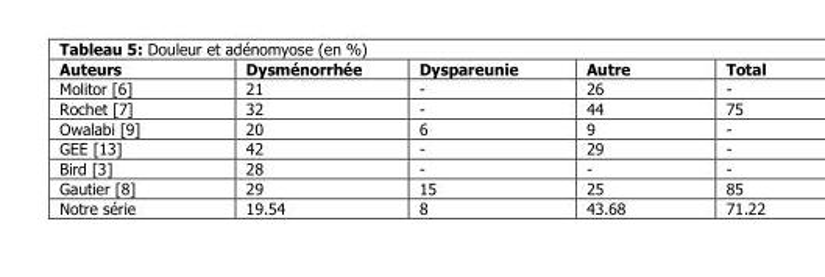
<table><thead><tr><td>Auteurs</td><td>Dysménorrhée</td><td>Dyspareunie</td><td>Autre</td><td>Total</td></tr></thead><tbody><tr><td>Molitor [6]</td><td>21</td><td>-</td><td>26</td><td>-</td></tr><tr><td>Rochet [7]</td><td>32</td><td>-</td><td>44</td><td>75</td></tr><tr><td>Owalabi [9]</td><td>20</td><td>6</td><td>9</td><td>-</td></tr><tr><td>GEE [13]</td><td>42</td><td>-</td><td>29</td><td>-</td></tr><tr><td>Bird [3]</td><td>28</td><td>-</td><td>-</td><td>-</td></tr><tr><td>Gautier [8]</td><td>29</td><td>15</td><td>25</td><td>85</td></tr><tr><td>Notre série</td><td>19.54</td><td>8</td><td>43.68</td><td>71.22</td></tr></tbody></table>